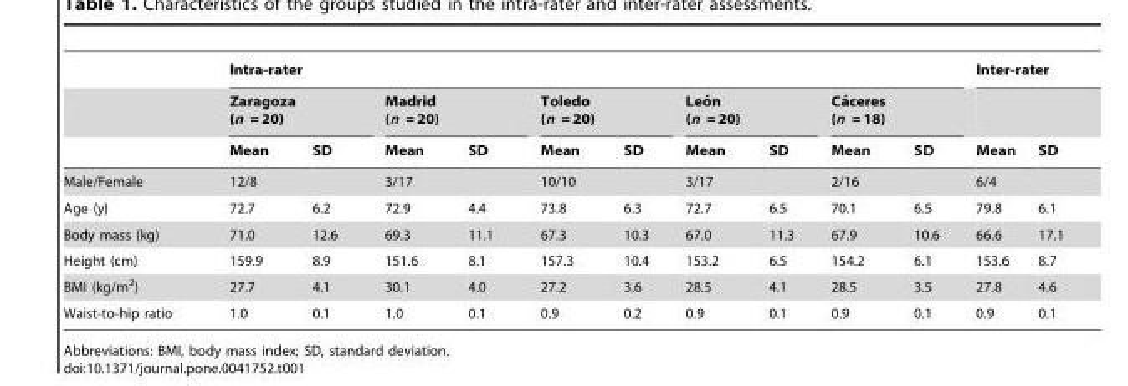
<table><thead><tr><td rowspan="3"></td><td colspan="10">Intra-rater</td><td colspan="2">Inter-rater</td></tr><tr><td colspan="2">Zaragoza (n = 20)</td><td colspan="2">Madrid (n = 20)</td><td colspan="2">Toledo (n = 20)</td><td colspan="2">Leo´ n (n = 20)</td><td colspan="2">Ca´ceres (n = 18)</td><td rowspan="2">Mean</td><td rowspan="2">SD</td></tr><tr><td>Mean</td><td>SD</td><td>Mean</td><td>SD</td><td>Mean</td><td>SD</td><td>Mean</td><td>SD</td><td>Mean</td><td>SD</td></tr></thead><tbody><tr><td>Male/Female</td><td colspan="2">12/8</td><td colspan="2">3/17</td><td colspan="2">10/10</td><td colspan="2">3/17</td><td colspan="2">2/16</td><td colspan="2">6/4</td></tr><tr><td>Age (y)</td><td>72.7</td><td>6.2</td><td>72.9</td><td>4.4</td><td>73.8</td><td>6.3</td><td>72.7</td><td>6.5</td><td>70.1</td><td>6.5</td><td>79.8</td><td>6.1</td></tr><tr><td>Body mass (kg)</td><td>71.0</td><td>12.6</td><td>69.3</td><td>11.1</td><td>67.3</td><td>10.3</td><td>67.0</td><td>11.3</td><td>67.9</td><td>10.6</td><td>66.6</td><td>17.1</td></tr><tr><td>Height (cm)</td><td>159.9</td><td>8.9</td><td>151.6</td><td>8.1</td><td>157.3</td><td>10.4</td><td>153.2</td><td>6.5</td><td>154.2</td><td>6.1</td><td>153.6</td><td>8.7</td></tr><tr><td>BMI (kg/m<sup>2</sup>)</td><td>27.7</td><td>4.1</td><td>30.1</td><td>4.0</td><td>27.2</td><td>3.6</td><td>28.5</td><td>4.1</td><td>28.5</td><td>3.5</td><td>27.8</td><td>4.6</td></tr><tr><td>Waist-to-hip ratio</td><td>1.0</td><td>0.1</td><td>1.0</td><td>0.1</td><td>0.9</td><td>0.2</td><td>0.9</td><td>0.1</td><td>0.9</td><td>0.1</td><td>0.9</td><td>0.1</td></tr></tbody></table>